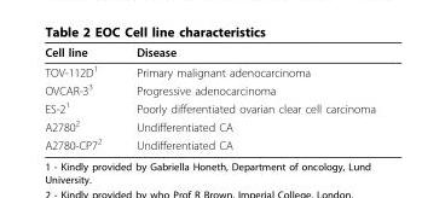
<table><thead><tr><td>Cell line</td><td>Disease</td></tr></thead><tbody><tr><td>TOV-112D<sup>1</sup></td><td>Primary malignant adenocarcinoma</td></tr><tr><td>OVCAR-3<sup>3</sup></td><td>Progressive adenocarcinoma</td></tr><tr><td>ES-2<sup>1</sup></td><td>Poorly differentiated ovarian clear cell carcinoma</td></tr><tr><td>A2780<sup>2</sup></td><td>Undifferentiated CA</td></tr><tr><td>A2780-CP7<sup>2</sup></td><td>Undifferentiated CA</td></tr></tbody></table>